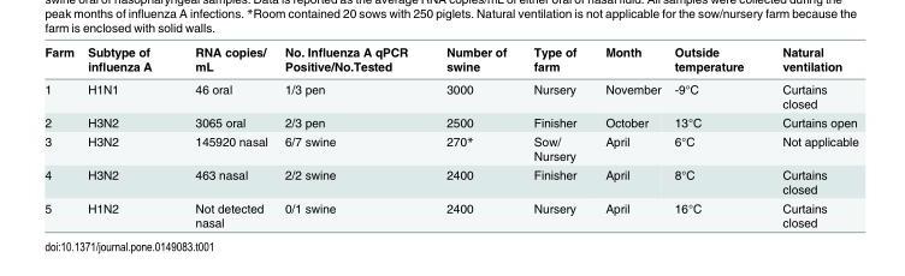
<table><thead><tr><td>Farm</td><td>Subtype of influenza A</td><td>RNA copies/ mL</td><td>No. Influenza A qPCR Positive/No.Tested</td><td>Number of swine</td><td>Type of farm</td><td>Month</td><td>Outside temperature</td><td>Natural ventilation</td></tr></thead><tbody><tr><td>1</td><td>H1N1</td><td>46 oral</td><td>1/3 pen</td><td>3000</td><td>Nursery</td><td>November</td><td>-9°C</td><td>Curtains closed</td></tr><tr><td>2</td><td>H3N2</td><td>3065 oral</td><td>2/3 pen</td><td>2500</td><td>Finisher</td><td>October</td><td>13°C</td><td>Curtains open</td></tr><tr><td>3</td><td>H3N2</td><td>145920 nasal</td><td>6/7 swine</td><td>270*</td><td>Sow/ Nursery</td><td>April</td><td>6°C</td><td>Not applicable</td></tr><tr><td>4</td><td>H3N2</td><td>463 nasal</td><td>2/2 swine</td><td>2400</td><td>Finisher</td><td>April</td><td>8°C</td><td>Curtains closed</td></tr><tr><td>5</td><td>H1N2</td><td>Not detected nasal</td><td>0/1 swine</td><td>2400</td><td>Nursery</td><td>April</td><td>16°C</td><td>Curtains closed</td></tr></tbody></table>